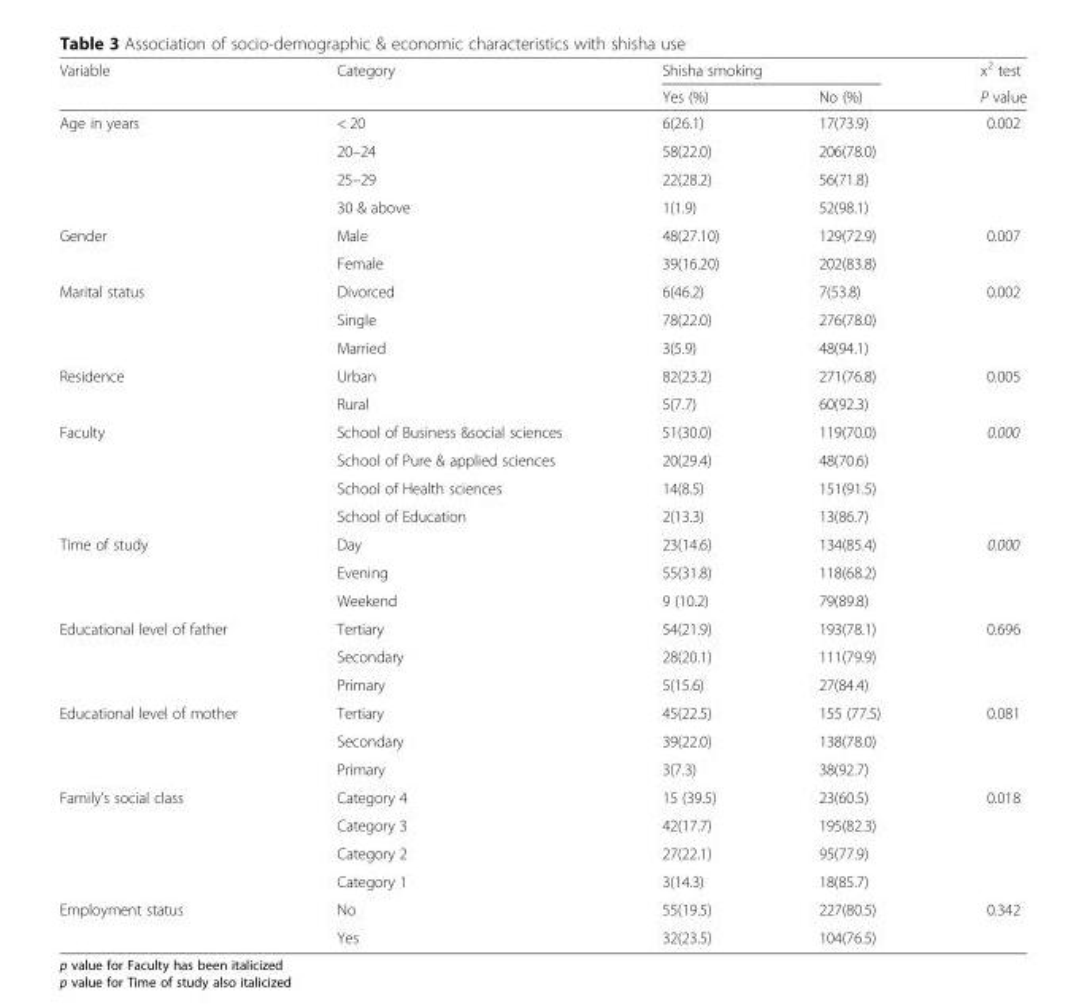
<table><thead><tr><td rowspan="2">Variable</td><td rowspan="2">Category</td><td colspan="2">Shisha smoking</td><td rowspan="2">x<sup>2</sup> test P value</td></tr><tr><td>Yes (%)</td><td>No (%)</td></tr></thead><tbody><tr><td rowspan="4">Age in years</td><td>&lt; 20</td><td>6(26.1)</td><td>17(73.9)</td><td rowspan="4">0.002</td></tr><tr><td>20–24</td><td>58(22.0)</td><td>206(78.0)</td></tr><tr><td>25–29</td><td>22(28.2)</td><td>56(71.8)</td></tr><tr><td>30 &amp; above</td><td>1(1.9)</td><td>52(98.1)</td></tr><tr><td rowspan="2">Gender</td><td>Male</td><td>48(27.10)</td><td>129(72.9)</td><td rowspan="2">0.007</td></tr><tr><td>Female</td><td>39(16.20)</td><td>202(83.8)</td></tr><tr><td rowspan="3">Marital status</td><td>Divorced</td><td>6(46.2)</td><td>7(53.8)</td><td rowspan="3">0.002</td></tr><tr><td>Single</td><td>78(22.0)</td><td>276(78.0)</td></tr><tr><td>Married</td><td>3(5.9)</td><td>48(94.1)</td></tr><tr><td rowspan="2">Residence</td><td>Urban</td><td>82(23.2)</td><td>271(76.8)</td><td rowspan="2">0.005</td></tr><tr><td>Rural</td><td>5(7.7)</td><td>60(92.3)</td></tr><tr><td rowspan="4">Faculty</td><td>School of Business &amp;social sciences</td><td>51(30.0)</td><td>119(70.0)</td><td rowspan="4">0.000</td></tr><tr><td>School of Pure &amp; applied sciences</td><td>20(29.4)</td><td>48(70.6)</td></tr><tr><td>School of Health sciences</td><td>14(8.5)</td><td>151(91.5)</td></tr><tr><td>School of Education</td><td>2(13.3)</td><td>13(86.7)</td></tr><tr><td rowspan="3">Time of study</td><td>Day</td><td>23(14.6)</td><td>134(85.4)</td><td rowspan="3">0.000</td></tr><tr><td>Evening</td><td>55(31.8)</td><td>118(68.2)</td></tr><tr><td>Weekend</td><td>9 (10.2)</td><td>79(89.8)</td></tr><tr><td rowspan="3">Educational level of father</td><td>Tertiary</td><td>54(21.9)</td><td>193(78.1)</td><td rowspan="3">0.696</td></tr><tr><td>Secondary</td><td>28(20.1)</td><td>111(79.9)</td></tr><tr><td>Primary</td><td>5(15.6)</td><td>27(84.4)</td></tr><tr><td rowspan="3">Educational level of mother</td><td>Tertiary</td><td>45(22.5)</td><td>155 (77.5)</td><td rowspan="3">0.081</td></tr><tr><td>Secondary</td><td>39(22.0)</td><td>138(78.0)</td></tr><tr><td>Primary</td><td>3(7.3)</td><td>38(92.7)</td></tr><tr><td rowspan="4">Family’s social class</td><td>Category 4</td><td>15 (39.5)</td><td>23(60.5)</td><td rowspan="4">0.018</td></tr><tr><td>Category 3</td><td>42(17.7)</td><td>195(82.3)</td></tr><tr><td>Category 2</td><td>27(22.1)</td><td>95(77.9)</td></tr><tr><td>Category 1</td><td>3(14.3)</td><td>18(85.7)</td></tr><tr><td rowspan="2">Employment status</td><td>No</td><td>55(19.5)</td><td>227(80.5)</td><td rowspan="2">0.342</td></tr><tr><td>Yes</td><td>32(23.5)</td><td>104(76.5)</td></tr></tbody></table>